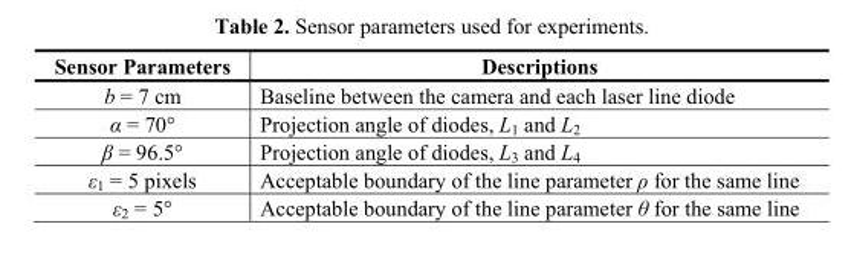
<table><thead><tr><td>Sensor Parameters</td><td>Descriptions</td></tr></thead><tbody><tr><td>b = 7 cm</td><td>Baseline between the camera and each laser line diode</td></tr><tr><td>α = 70°</td><td>Projection angle of diodes, L<sub>1</sub> and L<sub>2</sub></td></tr><tr><td>β = 96.5°</td><td>Projection angle of diodes, L<sub>3</sub> and L<sub>4</sub></td></tr><tr><td>ε<sub>1</sub> = 5 pixels</td><td>Acceptable boundary of the line parameter ρ for the same line</td></tr><tr><td>ε<sub>2</sub> = 5°</td><td>Acceptable boundary of the line parameter θ for the same line</td></tr></tbody></table>